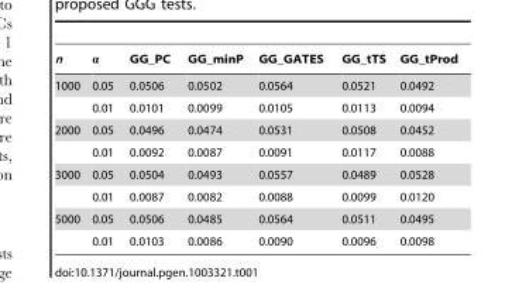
<table><thead><tr><td>n</td><td>α</td><td>GG_PC</td><td>GG_minP</td><td>GG_GATES</td><td>GG_tTS</td><td>GG_tProd</td></tr></thead><tbody><tr><td rowspan="2">1000</td><td>0.05</td><td>0.0506</td><td>0.0502</td><td>0.0564</td><td>0.0521</td><td>0.0492</td></tr><tr><td>0.01</td><td>0.0101</td><td>0.0099</td><td>0.0105</td><td>0.0113</td><td>0.0094</td></tr><tr><td rowspan="2">2000</td><td>0.05</td><td>0.0496</td><td>0.0474</td><td>0.0531</td><td>0.0508</td><td>0.0452</td></tr><tr><td>0.01</td><td>0.0092</td><td>0.0087</td><td>0.0091</td><td>0.0117</td><td>0.0088</td></tr><tr><td rowspan="2">3000</td><td>0.05</td><td>0.0504</td><td>0.0493</td><td>0.0557</td><td>0.0489</td><td>0.0528</td></tr><tr><td>0.01</td><td>0.0087</td><td>0.0082</td><td>0.0088</td><td>0.0099</td><td>0.0120</td></tr><tr><td rowspan="2">5000</td><td>0.05</td><td>0.0506</td><td>0.0485</td><td>0.0564</td><td>0.0511</td><td>0.0495</td></tr><tr><td>0.01</td><td>0.0103</td><td>0.0086</td><td>0.0090</td><td>0.0096</td><td>0.0098</td></tr></tbody></table>